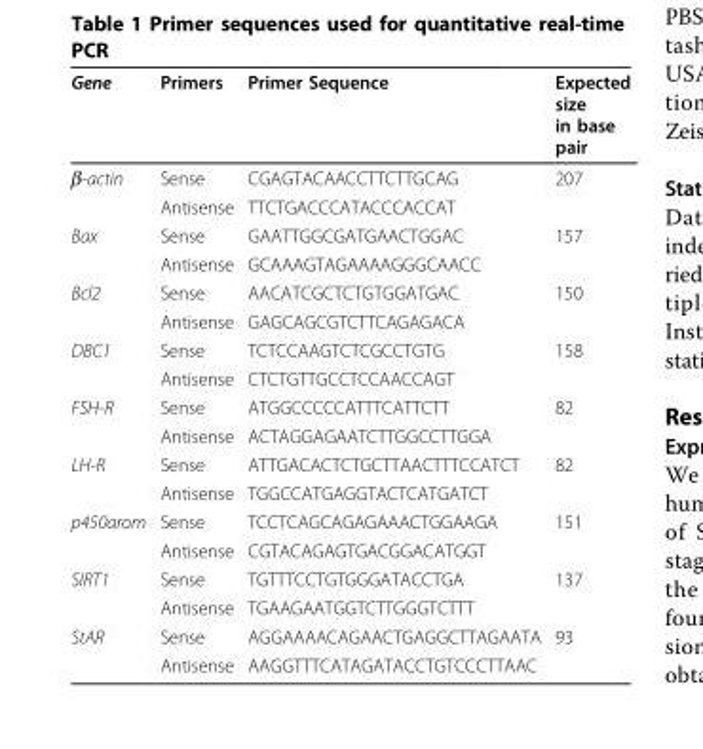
<table><thead><tr><td>Gene</td><td>Primers</td><td>Primer Sequence</td><td>Expected size in base pair</td></tr></thead><tbody><tr><td rowspan="2">β-actin</td><td>Sense</td><td>CGAGTACAACCTTCTTGCAG</td><td>207</td></tr><tr><td>Antisense</td><td>TTCTGACCCATACCCACCAT</td><td></td></tr><tr><td rowspan="2">Bax</td><td>Sense</td><td>GAATTGGCGATGAACTGGAC</td><td>157</td></tr><tr><td>Antisense</td><td>GCAAAGTAGAAAAGGGCAACC</td><td></td></tr><tr><td rowspan="2">Bcl2</td><td>Sense</td><td>AACATCGCTCTGTGGATGAC</td><td>150</td></tr><tr><td>Antisense</td><td>GAGCAGCGTCTTCAGAGACA</td><td></td></tr><tr><td rowspan="2">DBC1</td><td>Sense</td><td>TCTCCAAGTCTCGCCTGTG</td><td>158</td></tr><tr><td>Antisense</td><td>CTCTGTTGCCTCCAACCAGT</td><td></td></tr><tr><td rowspan="2">FSH-R</td><td>Sense</td><td>ATGGCCCCCATTTCATTCTT</td><td>82</td></tr><tr><td>Antisense</td><td>ACTAGGAGAATCTTGGCCTTGGA</td><td></td></tr><tr><td rowspan="2">LH-R</td><td>Sense</td><td>ATTGACACTCTGCTTAACTTTCCATCT</td><td>82</td></tr><tr><td>Antisense</td><td>TGGCCATGAGGTACTCATGATCT</td><td></td></tr><tr><td rowspan="2">p450arom</td><td>Sense</td><td>TCCTCAGCAGAGAAACTGGAAGA</td><td>151</td></tr><tr><td>Antisense</td><td>CGTACAGAGTGACGGACATGGT</td><td></td></tr><tr><td rowspan="2">SIRT1</td><td>Sense</td><td>TGTTTCCTGTGGGATACCTGA</td><td>137</td></tr><tr><td>Antisense</td><td>TGAAGAATGGTCTTGGGTCTTT</td><td></td></tr><tr><td rowspan="2">StAR</td><td>Sense</td><td>AGGAAAACAGAACTGAGGCTTAGAATA</td><td>93</td></tr><tr><td>Antisense</td><td>AAGGTTTCATAGATACCTGTCCCTTAAC</td><td></td></tr></tbody></table>